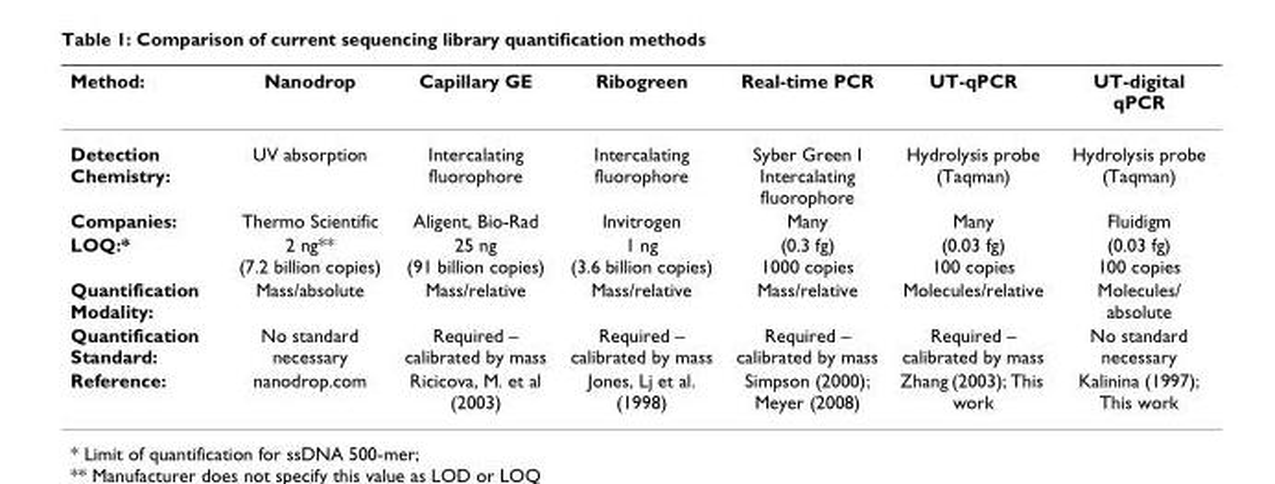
<table><thead><tr><td>Method:</td><td>Nanodrop</td><td>Capillary GE</td><td>Ribogreen</td><td>Real-time PCR</td><td>UT-qPCR</td><td>UT-digital qPCR</td></tr></thead><tbody><tr><td>Detection Chemistry:</td><td>UV absorption</td><td>Intercalating fluorophore</td><td>Intercalating fluorophore</td><td>Syber Green I Intercalating fluorophore</td><td>Hydrolysis probe (Taqman)</td><td>Hydrolysis probe (Taqman)</td></tr><tr><td>Companies:</td><td>Thermo Scientific</td><td>Aligent, Bio-Rad</td><td>Invitrogen</td><td>Many</td><td>Many</td><td>Fluidigm</td></tr><tr><td>LOQ:*</td><td>2 ng** (7.2 billion copies)</td><td>25 ng (91 billion copies)</td><td>1 ng (3.6 billion copies)</td><td>(0.3 fg) 1000 copies</td><td>(0.03 fg) 100 copies</td><td>(0.03 fg) 100 copies</td></tr><tr><td>Quantification Modality:</td><td>Mass/absolute</td><td>Mass/relative</td><td>Mass/relative</td><td>Mass/relative</td><td>Molecules/relative</td><td>Molecules/ absolute</td></tr><tr><td>Quantification Standard:</td><td>No standard necessary</td><td>Required – calibrated by mass</td><td>Required – calibrated by mass</td><td>Required – calibrated by mass</td><td>Required – calibrated by mass</td><td>No standard necessary</td></tr><tr><td>Reference:</td><td>nanodrop.com</td><td>Ricicova, M. et al (2003)</td><td>Jones, Lj et al. (1998)</td><td>Simpson (2000); Meyer (2008)</td><td>Zhang (2003); This work</td><td>Kalinina (1997); This work</td></tr></tbody></table>